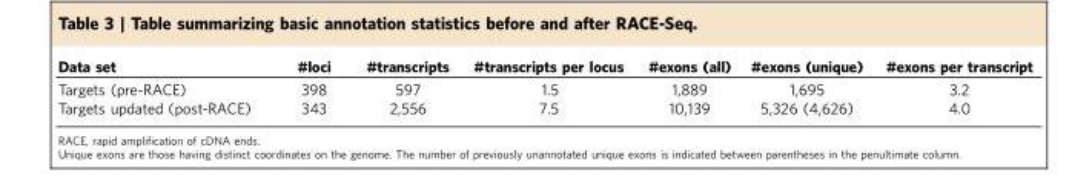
<table><thead><tr><td>Data set</td><td>#loci</td><td>#transcripts</td><td>#transcripts per locus</td><td>#exons (all)</td><td>#exons (unique)</td><td>#exons per transcript</td></tr></thead><tbody><tr><td>Targets (pre-RACE)</td><td>398</td><td>597</td><td>1.5</td><td>1,889</td><td>1,695</td><td>3.2</td></tr><tr><td>Targets updated (post-RACE)</td><td>343</td><td>2,556</td><td>7.5</td><td>10,139</td><td>5,326 (4,626)</td><td>4.0</td></tr></tbody></table>